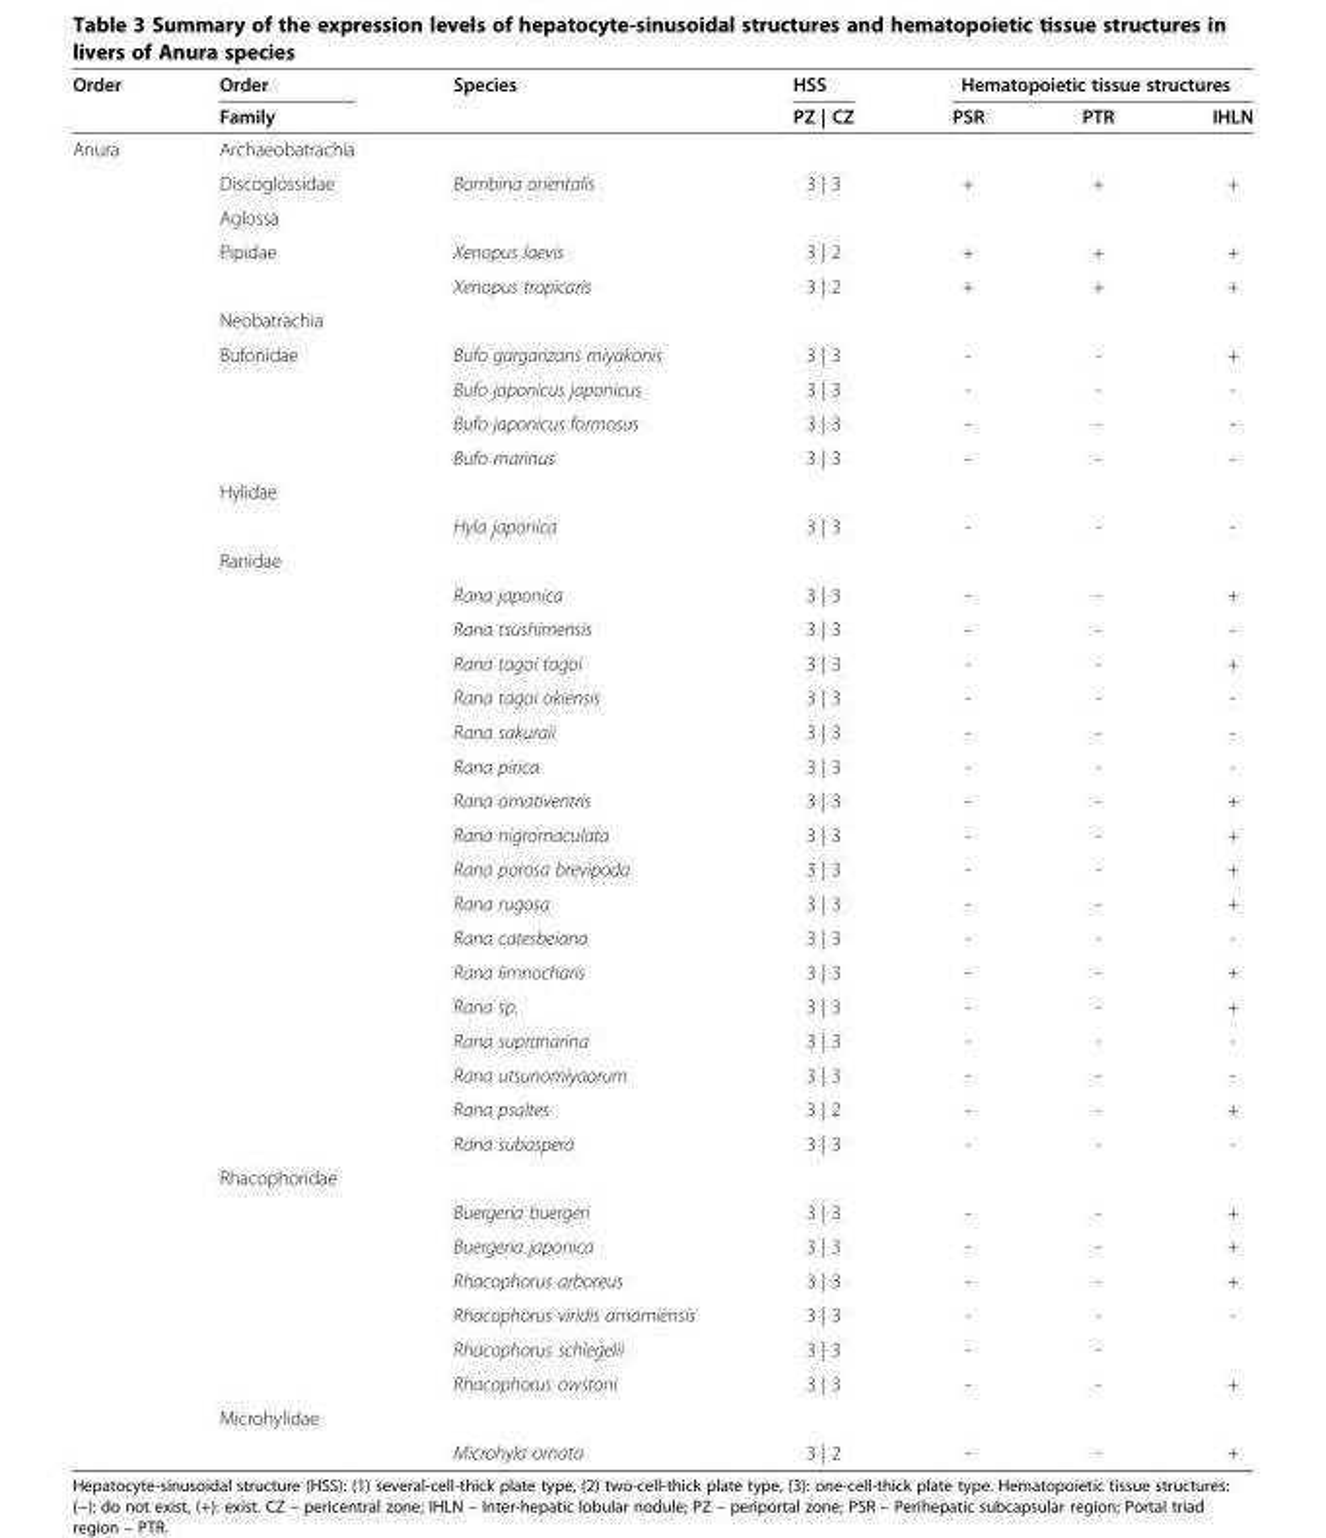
<table><thead><tr><td rowspan="2">Order</td><td rowspan="2">Order Family</td><td rowspan="2">Species</td><td rowspan="2">HSS PZ | CZ</td><td colspan="3">Hematopoietic tissue structures</td></tr><tr><td>PSR</td><td>PTR</td><td>IHLN</td></tr></thead><tbody><tr><td rowspan="39">Anura</td><td>Archaeobatrachia</td><td></td><td></td><td></td><td></td><td></td></tr><tr><td>Discoglossidae</td><td>Bombina orientalis</td><td>3 | 3</td><td>+</td><td>+</td><td>+</td></tr><tr><td>Aglossa</td><td></td><td></td><td></td><td></td><td></td></tr><tr><td>Pipidae</td><td>Xenopus laevis</td><td>3 | 2</td><td>+</td><td>+</td><td>+</td></tr><tr><td></td><td>Xenopus tropicaris</td><td>3 | 2</td><td>+</td><td>+</td><td>+</td></tr><tr><td>Neobatrachia</td><td></td><td></td><td></td><td></td><td></td></tr><tr><td>Bufonidae</td><td>Bufo gargarizans miyakonis</td><td>3 | 3</td><td>-</td><td>-</td><td>+</td></tr><tr><td></td><td>Bufo japonicus japonicus</td><td>3 | 3</td><td>-</td><td>-</td><td>-</td></tr><tr><td></td><td>Bufo japonicus formosus</td><td>3 | 3</td><td>-</td><td>-</td><td>-</td></tr><tr><td></td><td>Bufo marinus</td><td>3 | 3</td><td>-</td><td>-</td><td>-</td></tr><tr><td>Hylidae</td><td></td><td></td><td></td><td></td><td></td></tr><tr><td></td><td>Hyla japonica</td><td>3 | 3</td><td>-</td><td>-</td><td>-</td></tr><tr><td>Ranidae</td><td></td><td></td><td></td><td></td><td></td></tr><tr><td></td><td>Rana japonica</td><td>3 | 3</td><td>-</td><td>-</td><td>+</td></tr><tr><td></td><td>Rana tsushimensis</td><td>3 | 3</td><td>-</td><td>-</td><td>-</td></tr><tr><td></td><td>Rana tagoi tagoi</td><td>3 | 3</td><td>-</td><td>-</td><td>+</td></tr><tr><td></td><td>Rana tagoi okiensis</td><td>3 | 3</td><td>-</td><td>-</td><td>-</td></tr><tr><td></td><td>Rana sakuraii</td><td>3 | 3</td><td>-</td><td>-</td><td>-</td></tr><tr><td></td><td>Rana pirica</td><td>3 | 3</td><td>-</td><td>-</td><td>-</td></tr><tr><td></td><td>Rana ornativentris</td><td>3 | 3</td><td>-</td><td>-</td><td>+</td></tr><tr><td></td><td>Rana nigromaculata</td><td>3 | 3</td><td>-</td><td>-</td><td>+</td></tr><tr><td></td><td>Rana porosa brevipoda</td><td>3 | 3</td><td>-</td><td>-</td><td>+</td></tr><tr><td></td><td>Rana rugosa</td><td>3 | 3</td><td>-</td><td>-</td><td>+</td></tr><tr><td></td><td>Rana catesbeiana</td><td>3 | 3</td><td>-</td><td>-</td><td>-</td></tr><tr><td></td><td>Rana limnocharis</td><td>3 | 3</td><td>-</td><td>-</td><td>+</td></tr><tr><td></td><td>Rana sp.</td><td>3 | 3</td><td>-</td><td>-</td><td>+</td></tr><tr><td></td><td>Rana supranarina</td><td>3 | 3</td><td>-</td><td>-</td><td>-</td></tr><tr><td></td><td>Rana utsunomiyaorum</td><td>3 | 3</td><td>-</td><td>-</td><td>-</td></tr><tr><td></td><td>Rana psaltes</td><td>3 | 2</td><td>-</td><td>-</td><td>+</td></tr><tr><td></td><td>Rana subaspera</td><td>3 | 3</td><td>-</td><td>-</td><td>-</td></tr><tr><td>Rhacophoridae</td><td></td><td></td><td></td><td></td><td></td></tr><tr><td></td><td>Buergeria buergeri</td><td>3 | 3</td><td>-</td><td>-</td><td>+</td></tr><tr><td></td><td>Buergeria japonica</td><td>3 | 3</td><td>-</td><td>-</td><td>+</td></tr><tr><td></td><td>Rhacophorus arboreus</td><td>3 | 3</td><td>-</td><td>-</td><td>+</td></tr><tr><td></td><td>Rhacophorus viridis amamiensis</td><td>3 | 3</td><td>-</td><td>-</td><td>-</td></tr><tr><td></td><td>Rhacophorus schlegelii</td><td>3 | 3</td><td>-</td><td>-</td><td></td></tr><tr><td></td><td>Rhacophorus owstoni</td><td>3 | 3</td><td>-</td><td>-</td><td>+</td></tr><tr><td>Microhylidae</td><td></td><td></td><td></td><td></td><td></td></tr><tr><td></td><td>Microhyla ornata</td><td>3 | 2</td><td>-</td><td>-</td><td>+</td></tr></tbody></table>